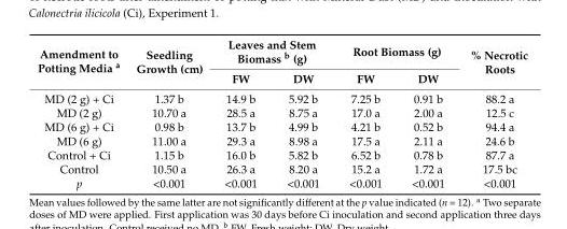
<table><thead><tr><td rowspan="2">Amendment to Potting Media <sup>a</sup></td><td rowspan="2">Seedling Growth (cm)</td><td colspan="2">Leaves and Stem Biomass <sup>b</sup> (g)</td><td colspan="2">Root Biomass (g)</td><td rowspan="2">% Necrotic Roots</td></tr><tr><td>FW</td><td>DW</td><td>FW</td><td>DW</td></tr></thead><tbody><tr><td>MD (2 g) + Ci</td><td>1.37 b</td><td>14.9 b</td><td>5.92 b</td><td>7.25 b</td><td>0.91 b</td><td>88.2 a</td></tr><tr><td>MD (2 g)</td><td>10.70 a</td><td>28.5 a</td><td>8.75 a</td><td>17.0 a</td><td>2.00 a</td><td>12.5 c</td></tr><tr><td>MD (6 g) + Ci</td><td>0.98 b</td><td>13.7 b</td><td>4.99 b</td><td>4.21 b</td><td>0.52 b</td><td>94.4 a</td></tr><tr><td>MD (6 g)</td><td>11.00 a</td><td>29.3 a</td><td>8.98 a</td><td>17.5 a</td><td>2.11 a</td><td>24.6 b</td></tr><tr><td>Control + Ci</td><td>1.15 b</td><td>16.0 b</td><td>5.82 b</td><td>6.52 b</td><td>0.78 b</td><td>87.7 a</td></tr><tr><td>Control</td><td>10.50 a</td><td>26.3 a</td><td>8.20 a</td><td>15.2 a</td><td>1.72 a</td><td>17.5 bc</td></tr><tr><td>p</td><td>&lt;0.001</td><td>&lt;0.001</td><td>&lt;0.001</td><td>&lt;0.001</td><td>&lt;0.001</td><td>&lt;0.001</td></tr></tbody></table>